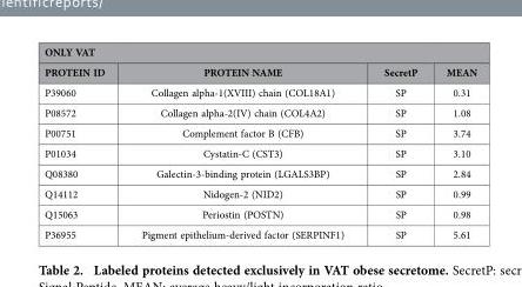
<table><thead><tr><td colspan="4">ONLY VAT</td></tr><tr><td>PROTEIN ID</td><td>PROTEIN NAME</td><td>SecretP</td><td>MEAN</td></tr></thead><tbody><tr><td>P39060</td><td>Collagen alpha-1(XVIII) chain (COL18A1)</td><td>SP</td><td>0.31</td></tr><tr><td>P08572</td><td>Collagen alpha-2(IV) chain (COL4A2)</td><td>SP</td><td>1.08</td></tr><tr><td>P00751</td><td>Complement factor B (CFB)</td><td>SP</td><td>3.74</td></tr><tr><td>P01034</td><td>Cystatin-C (CST3)</td><td>SP</td><td>3.10</td></tr><tr><td>Q08380</td><td>Galectin-3-binding protein (LGALS3BP)</td><td>SP</td><td>2.84</td></tr><tr><td>Q14112</td><td>Nidogen-2 (NID2)</td><td>SP</td><td>0.99</td></tr><tr><td>Q15063</td><td>Periostin (POSTN)</td><td>SP</td><td>0.98</td></tr><tr><td>P36955</td><td>Pigment epithelium-derived factor (SERPINF1)</td><td>SP</td><td>5.61</td></tr></tbody></table>